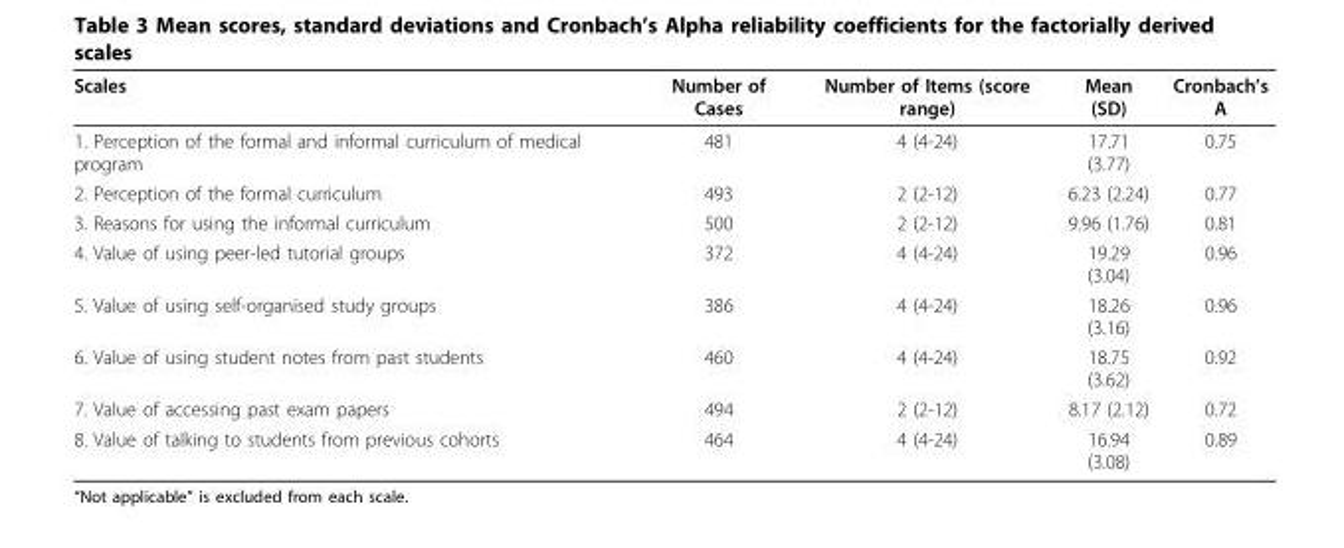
<table><thead><tr><td>Scales</td><td>Number of Cases</td><td>Number of Items (score range)</td><td>Mean (SD)</td><td>Cronbach’s Α</td></tr></thead><tbody><tr><td>1. Perception of the formal and informal curriculum of medical program</td><td>481</td><td>4 (4-24)</td><td>17.71 (3.77)</td><td>0.75</td></tr><tr><td>2. Perception of the formal curriculum</td><td>493</td><td>2 (2-12)</td><td>6.23 (2.24)</td><td>0.77</td></tr><tr><td>3. Reasons for using the informal curriculum</td><td>500</td><td>2 (2-12)</td><td>9.96 (1.76)</td><td>0.81</td></tr><tr><td>4. Value of using peer-led tutorial groups</td><td>372</td><td>4 (4-24)</td><td>19.29 (3.04)</td><td>0.96</td></tr><tr><td>5. Value of using self-organised study groups</td><td>386</td><td>4 (4-24)</td><td>18.26 (3.16)</td><td>0.96</td></tr><tr><td>6. Value of using student notes from past students</td><td>460</td><td>4 (4-24)</td><td>18.75 (3.62)</td><td>0.92</td></tr><tr><td>7. Value of accessing past exam papers</td><td>494</td><td>2 (2-12)</td><td>8.17 (2.12)</td><td>0.72</td></tr><tr><td>8. Value of talking to students from previous cohorts</td><td>464</td><td>4 (4-24)</td><td>16.94 (3.08)</td><td>0.89</td></tr></tbody></table>